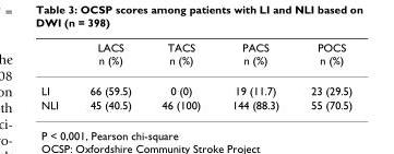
<table><thead><tr><td></td><td>LACS n (%)</td><td>TACS n (%)</td><td>PACS n (%)</td><td>POCS n (%)</td></tr></thead><tbody><tr><td>LI</td><td>66 (59.5)</td><td>0 (0)</td><td>19 (11.7)</td><td>23 (29.5)</td></tr><tr><td>NLI</td><td>45 (40.5)</td><td>46 (100)</td><td>144 (88.3)</td><td>55 (70.5)</td></tr></tbody></table>